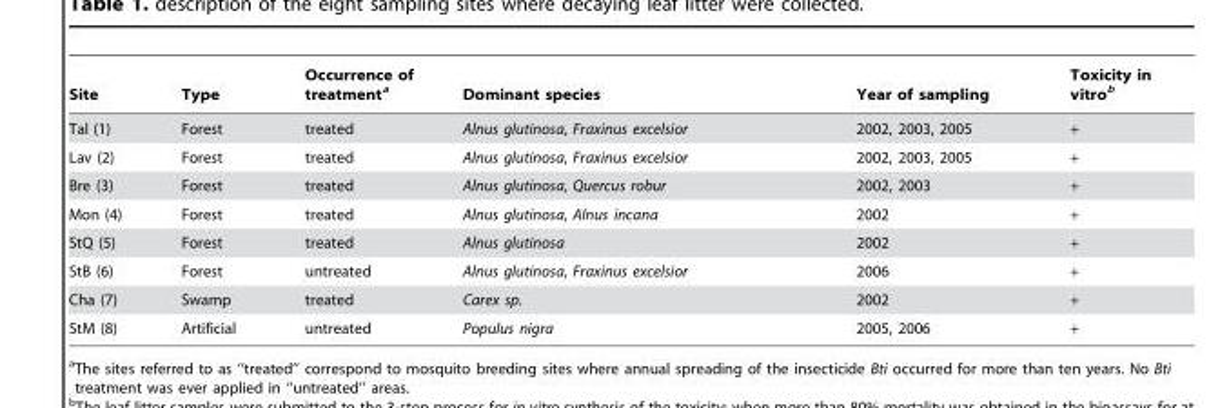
<table><thead><tr><td>Site</td><td>Type</td><td>Occurrence of treatment<sup>a</sup></td><td>Dominant species</td><td>Year of sampling</td><td>Toxicity in vitro<sup>b</sup></td></tr></thead><tbody><tr><td>Tal (1)</td><td>Forest</td><td>treated</td><td>Alnus glutinosa, Fraxinus excelsior</td><td>2002, 2003, 2005</td><td>+</td></tr><tr><td>Lav (2)</td><td>Forest</td><td>treated</td><td>Alnus glutinosa, Fraxinus excelsior</td><td>2002, 2003, 2005</td><td>+</td></tr><tr><td>Bre (3)</td><td>Forest</td><td>treated</td><td>Alnus glutinosa, Quercus robur</td><td>2002, 2003</td><td>+</td></tr><tr><td>Mon (4)</td><td>Forest</td><td>treated</td><td>Alnus glutinosa, Alnus incana</td><td>2002</td><td>+</td></tr><tr><td>StQ (5)</td><td>Forest</td><td>treated</td><td>Alnus glutinosa</td><td>2002</td><td>+</td></tr><tr><td>StB (6)</td><td>Forest</td><td>untreated</td><td>Alnus glutinosa, Fraxinus excelsior</td><td>2006</td><td>+</td></tr><tr><td>Cha (7)</td><td>Swamp</td><td>treated</td><td>Carex sp.</td><td>2002</td><td>+</td></tr><tr><td>StM (8)</td><td>Artificial</td><td>untreated</td><td>Populus nigra</td><td>2005, 2006</td><td>+</td></tr></tbody></table>